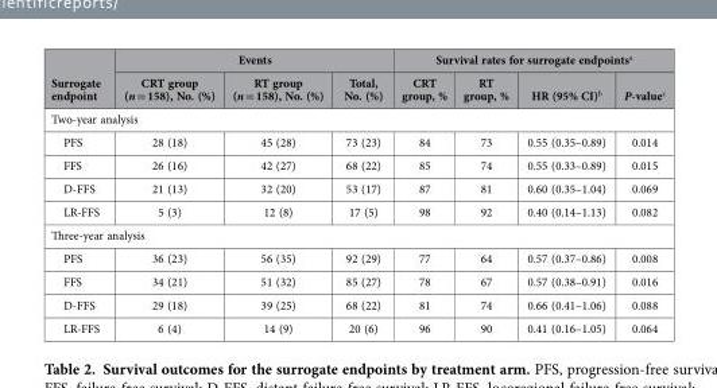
<table><thead><tr><td rowspan="2">Surrogate endpoint</td><td colspan="3">Events</td><td colspan="4">Survival rates for surrogate endpoints<sup>a</sup></td></tr><tr><td>CRT group (n = 158), No. (%)</td><td>RT group (n = 158), No. (%)</td><td>Total, No. (%)</td><td>CRT group, %</td><td>RT group, %</td><td>HR (95% CI)<sup>b</sup></td><td>P-value<sup>c</sup></td></tr></thead><tbody><tr><td colspan="8">Two-year analysis</td></tr><tr><td>PFS</td><td>28 (18)</td><td>45 (28)</td><td>73 (23)</td><td>84</td><td>73</td><td>0.55 (0.35–0.89)</td><td>0.014</td></tr><tr><td>FFS</td><td>26 (16)</td><td>42 (27)</td><td>68 (22)</td><td>85</td><td>74</td><td>0.55 (0.33–0.89)</td><td>0.015</td></tr><tr><td>D-FFS</td><td>21 (13)</td><td>32 (20)</td><td>53 (17)</td><td>87</td><td>81</td><td>0.60 (0.35–1.04)</td><td>0.069</td></tr><tr><td>LR-FFS</td><td>5 (3)</td><td>12 (8)</td><td>17 (5)</td><td>98</td><td>92</td><td>0.40 (0.14–1.13)</td><td>0.082</td></tr><tr><td colspan="8">Three-year analysis</td></tr><tr><td>PFS</td><td>36 (23)</td><td>56 (35)</td><td>92 (29)</td><td>77</td><td>64</td><td>0.57 (0.37–0.86)</td><td>0.008</td></tr><tr><td>FFS</td><td>34 (21)</td><td>51 (32)</td><td>85 (27)</td><td>78</td><td>67</td><td>0.57 (0.38–0.91)</td><td>0.016</td></tr><tr><td>D-FFS</td><td>29 (18)</td><td>39 (25)</td><td>68 (22)</td><td>81</td><td>74</td><td>0.66 (0.41–1.06)</td><td>0.088</td></tr><tr><td>LR-FFS</td><td>6 (4)</td><td>14 (9)</td><td>20 (6)</td><td>96</td><td>90</td><td>0.41 (0.16–1.05)</td><td>0.064</td></tr></tbody></table>